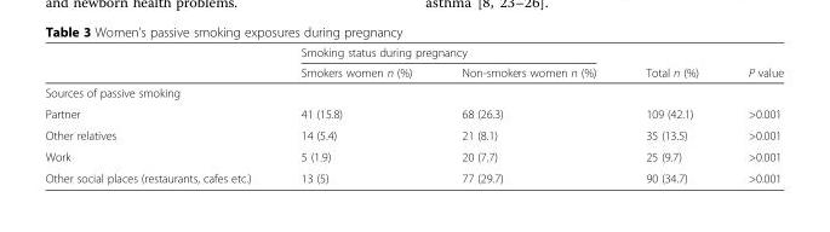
<table><thead><tr><td rowspan="2"></td><td colspan="2">Smoking status during pregnancy</td><td rowspan="2">Total n (%)</td><td rowspan="2">P value</td></tr><tr><td>Smokers women n (%)</td><td>Non-smokers women n (%)</td></tr></thead><tbody><tr><td colspan="5">Sources of passive smoking</td></tr><tr><td>Partner</td><td>41 (15.8)</td><td>68 (26.3)</td><td>109 (42.1)</td><td>&gt;0.001</td></tr><tr><td>Other relatives</td><td>14 (5.4)</td><td>21 (8.1)</td><td>35 (13.5)</td><td>&gt;0.001</td></tr><tr><td>Work</td><td>5 (1.9)</td><td>20 (7.7)</td><td>25 (9.7)</td><td>&gt;0.001</td></tr><tr><td>Other social places (restaurants, cafes etc.)</td><td>13 (5)</td><td>77 (29.7)</td><td>90 (34.7)</td><td>&gt;0.001</td></tr></tbody></table>